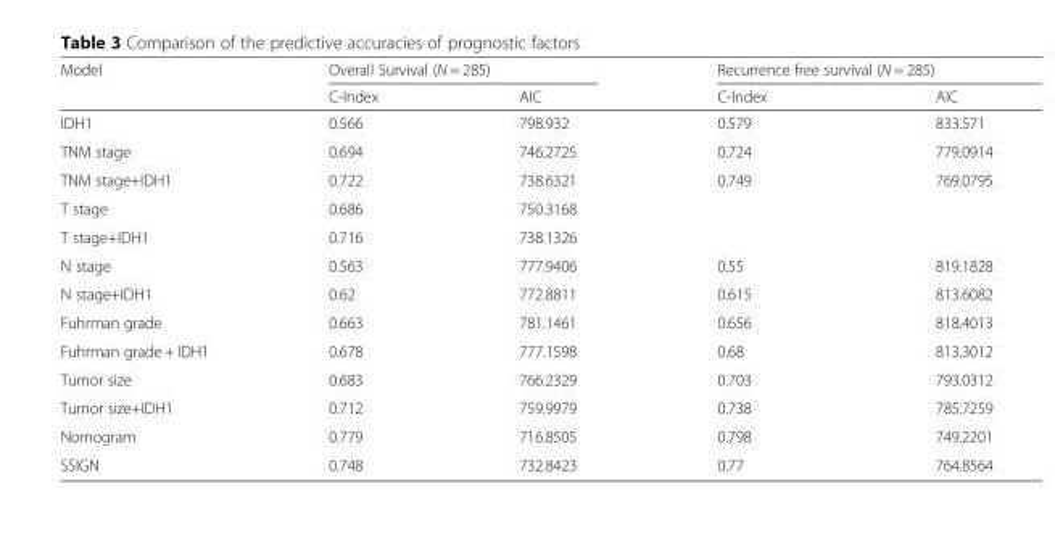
<table><thead><tr><td rowspan="2">Model</td><td colspan="2">Overall Survival (N = 285)</td><td colspan="2">Recurrence free survival (N = 285)</td></tr><tr><td>C-Index</td><td>AIC</td><td>C-Index</td><td>AIC</td></tr></thead><tbody><tr><td>IDH1</td><td>0.566</td><td>798.932</td><td>0.579</td><td>833.571</td></tr><tr><td>TNM stage</td><td>0.694</td><td>746.2725</td><td>0.724</td><td>779.0914</td></tr><tr><td>TNM stage+IDH1</td><td>0.722</td><td>738.6321</td><td>0.749</td><td>769.0795</td></tr><tr><td>T stage</td><td>0.686</td><td>750.3168</td><td></td><td></td></tr><tr><td>T stage+IDH1</td><td>0.716</td><td>738.1326</td><td></td><td></td></tr><tr><td>N stage</td><td>0.563</td><td>777.9406</td><td>0.55</td><td>819.1828</td></tr><tr><td>N stage+IDH1</td><td>0.62</td><td>772.8811</td><td>0.615</td><td>813.6082</td></tr><tr><td>Fuhrman grade</td><td>0.663</td><td>781.1461</td><td>0.656</td><td>818.4013</td></tr><tr><td>Fuhrman grade + IDH1</td><td>0.678</td><td>777.1598</td><td>0.68</td><td>813.3012</td></tr><tr><td>Tumor size</td><td>0.683</td><td>766.2329</td><td>0.703</td><td>793.0312</td></tr><tr><td>Tumor size+IDH1</td><td>0.712</td><td>759.9979</td><td>0.738</td><td>785.7259</td></tr><tr><td>Nomogram</td><td>0.779</td><td>716.8505</td><td>0.798</td><td>749.2201</td></tr><tr><td>SSIGN</td><td>0.748</td><td>732.8423</td><td>0.77</td><td>764.8564</td></tr></tbody></table>